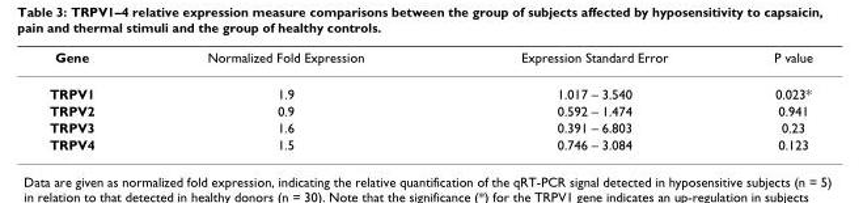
<table><thead><tr><td>Gene</td><td>Normalized Fold Expression</td><td>Expression Standard Error</td><td>P value</td></tr></thead><tbody><tr><td>TRPV1</td><td>1.9</td><td>1.017 – 3.540</td><td>0.023*</td></tr><tr><td>TRPV2</td><td>0.9</td><td>0.592 – 1.474</td><td>0.941</td></tr><tr><td>TRPV3</td><td>1.6</td><td>0.391 – 6.803</td><td>0.23</td></tr><tr><td>TRPV4</td><td>1.5</td><td>0.746 – 3.084</td><td>0.123</td></tr></tbody></table>